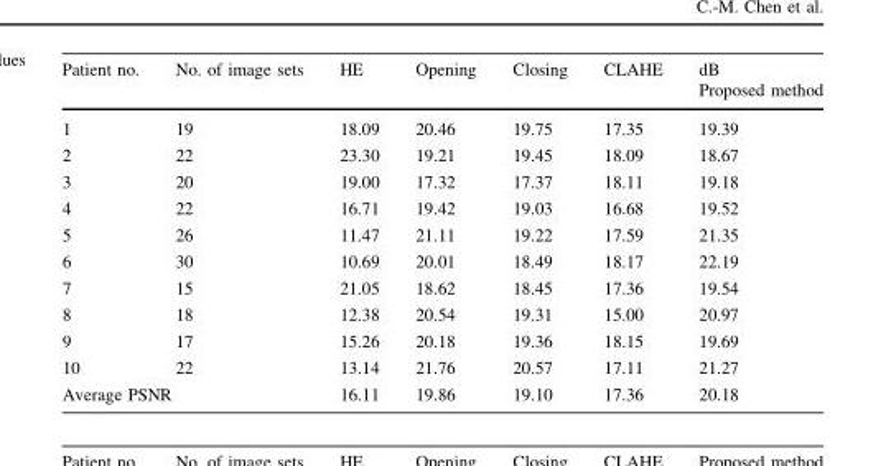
<table><thead><tr><td rowspan="2">Patient no.</td><td rowspan="2">No. of image sets</td><td rowspan="2">HE</td><td rowspan="2">Opening</td><td rowspan="2">Closing</td><td rowspan="2">CLAHE</td><td rowspan="2">dB Proposed method</td></tr><tr></tr></thead><tbody><tr><td>1</td><td>19</td><td>18.09</td><td>20.46</td><td>19.75</td><td>17.35</td><td>19.39</td></tr><tr><td>2</td><td>22</td><td>23.30</td><td>19.21</td><td>19.45</td><td>18.09</td><td>18.67</td></tr><tr><td>3</td><td>20</td><td>19.00</td><td>17.32</td><td>17.37</td><td>18.11</td><td>19.18</td></tr><tr><td>4</td><td>22</td><td>16.71</td><td>19.42</td><td>19.03</td><td>16.68</td><td>19.52</td></tr><tr><td>5</td><td>26</td><td>11.47</td><td>21.11</td><td>19.22</td><td>17.59</td><td>21.35</td></tr><tr><td>6</td><td>30</td><td>10.69</td><td>20.01</td><td>18.49</td><td>18.17</td><td>22.19</td></tr><tr><td>7</td><td>15</td><td>21.05</td><td>18.62</td><td>18.45</td><td>17.36</td><td>19.54</td></tr><tr><td>8</td><td>18</td><td>12.38</td><td>20.54</td><td>19.31</td><td>15.00</td><td>20.97</td></tr><tr><td>9</td><td>17</td><td>15.26</td><td>20.18</td><td>19.36</td><td>18.15</td><td>19.69</td></tr><tr><td>10</td><td>22</td><td>13.14</td><td>21.76</td><td>20.57</td><td>17.11</td><td>21.27</td></tr><tr><td colspan="2">Average PSNR</td><td>16.11</td><td>19.86</td><td>19.10</td><td>17.36</td><td>20.18</td></tr></tbody></table>